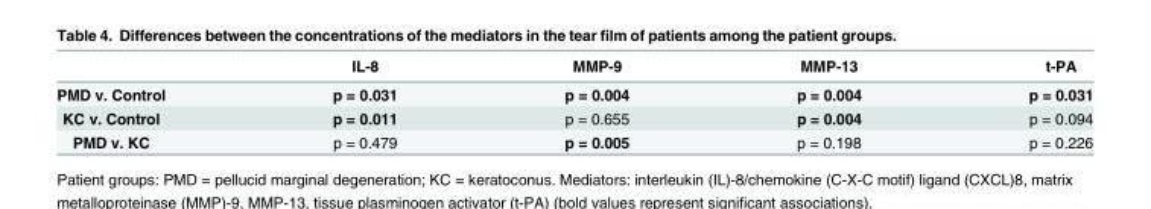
<table><thead><tr><td></td><td>IL-8</td><td>MMP-9</td><td>MMP-13</td><td>t-PA</td></tr></thead><tbody><tr><td>PMD v. Control</td><td>p = 0.031</td><td>p = 0.004</td><td>p = 0.004</td><td>p = 0.031</td></tr><tr><td>KC v. Control</td><td>p = 0.011</td><td>p = 0.655</td><td>p = 0.004</td><td>p = 0.094</td></tr><tr><td>PMD v. KC</td><td>p = 0.479</td><td>p = 0.005</td><td>p = 0.198</td><td>p = 0.226</td></tr></tbody></table>